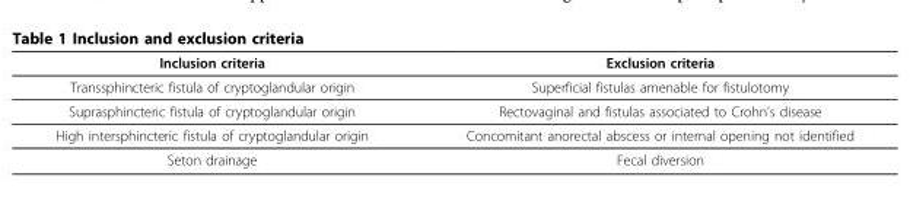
<table><thead><tr><td>Inclusion criteria</td><td>Exclusion criteria</td></tr></thead><tbody><tr><td>Transsphincteric fistula of cryptoglandular origin</td><td>Superficial fistulas amenable for fistulotomy</td></tr><tr><td>Suprasphincteric fistula of cryptoglandular origin</td><td>Rectovaginal and fistulas associated to Crohn’s disease</td></tr><tr><td>High intersphincteric fistula of cryptoglandular origin</td><td>Concomitant anorectal abscess or internal opening not identified</td></tr><tr><td>Seton drainage</td><td>Fecal diversion</td></tr></tbody></table>